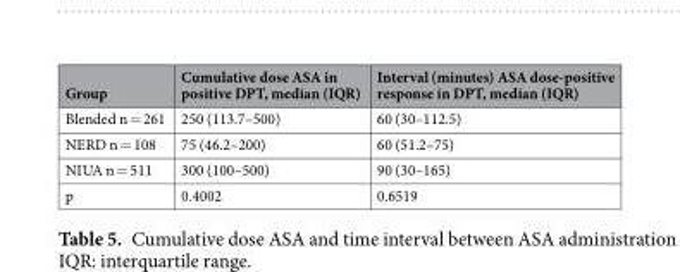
<table><thead><tr><td>Group</td><td>Cumulative dose ASA in positive DPT, median (IQR)</td><td>Interval (minutes) ASA dose-positive response in DPT, median (IQR)</td></tr></thead><tbody><tr><td>Blended n = 261</td><td>250 (113.7–500)</td><td>60 (30–112.5)</td></tr><tr><td>NERD n = 108</td><td>75 (46.2–200)</td><td>60 (51.2–75)</td></tr><tr><td>NIUA n = 511</td><td>300 (100–500)</td><td>90 (30–165)</td></tr><tr><td>p</td><td>0.4002</td><td>0.6519</td></tr></tbody></table>